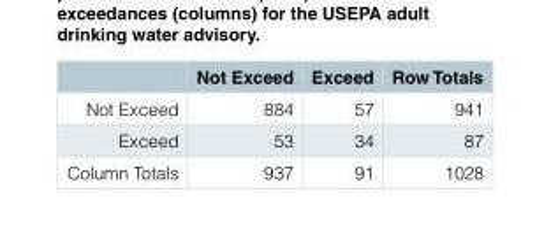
<table><thead><tr><td></td><td>Not Exceed</td><td>Exceed</td><td>Row Totals</td></tr></thead><tbody><tr><td>Not Exceed</td><td>884</td><td>57</td><td>941</td></tr><tr><td>Exceed</td><td>53</td><td>34</td><td>87</td></tr><tr><td>Column Totals</td><td>937</td><td>91</td><td>1028</td></tr></tbody></table>